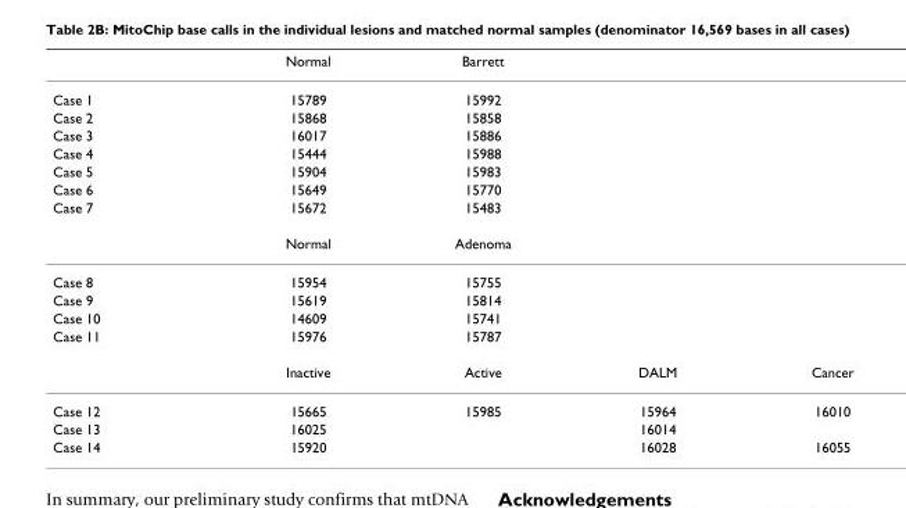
<table><thead><tr><td></td><td>Normal</td><td>Barrett</td><td></td><td></td></tr></thead><tbody><tr><td>Case 1</td><td>15789</td><td>15992</td><td></td><td></td></tr><tr><td>Case 2</td><td>15868</td><td>15858</td><td></td><td></td></tr><tr><td>Case 3</td><td>16017</td><td>15886</td><td></td><td></td></tr><tr><td>Case 4</td><td>15444</td><td>15988</td><td></td><td></td></tr><tr><td>Case 5</td><td>15904</td><td>15983</td><td></td><td></td></tr><tr><td>Case 6</td><td>15649</td><td>15770</td><td></td><td></td></tr><tr><td rowspan="2">Case 7</td><td>15672</td><td>15483</td><td></td><td></td></tr><tr><td>Normal</td><td>Adenoma</td><td></td><td></td></tr><tr><td>Case 8</td><td>15954</td><td>15755</td><td></td><td></td></tr><tr><td>Case 9</td><td>15619</td><td>15814</td><td></td><td></td></tr><tr><td>Case 10</td><td>14609</td><td>15741</td><td></td><td></td></tr><tr><td rowspan="2">Case 11</td><td>15976</td><td>15787</td><td></td><td></td></tr><tr><td>Inactive</td><td>Active</td><td>DALM</td><td>Cancer</td></tr><tr><td>Case 12</td><td>15665</td><td>15985</td><td>15964</td><td>16010</td></tr><tr><td>Case 13</td><td>16025</td><td></td><td>16014</td><td></td></tr><tr><td>Case 14</td><td>15920</td><td></td><td>16028</td><td>16055</td></tr></tbody></table>